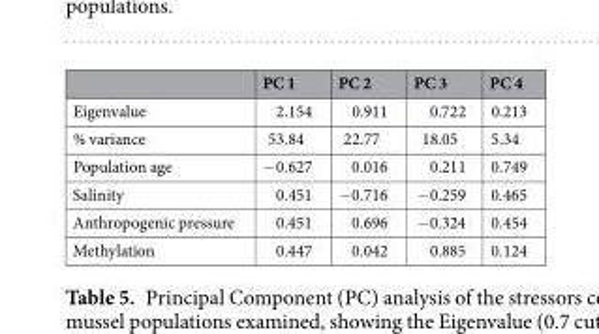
<table><thead><tr><td></td><td>PC 1</td><td>PC 2</td><td>PC 3</td><td>PC 4</td></tr></thead><tbody><tr><td>Eigenvalue</td><td>2.154</td><td>0.911</td><td>0.722</td><td>0.213</td></tr><tr><td>% variance</td><td>53.84</td><td>22.77</td><td>18.05</td><td>5.34</td></tr><tr><td>Population age</td><td>−0.627</td><td>0.016</td><td>0.211</td><td>0.749</td></tr><tr><td>Salinity</td><td>0.451</td><td>−0.716</td><td>−0.259</td><td>0.465</td></tr><tr><td>Anthropogenic pressure</td><td>0.451</td><td>0.696</td><td>−0.324</td><td>0.454</td></tr><tr><td>Methylation</td><td>0.447</td><td>0.042</td><td>0.885</td><td>0.124</td></tr></tbody></table>